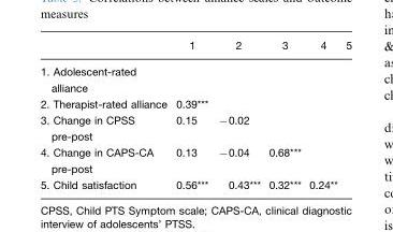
<table><thead><tr><td></td><td>1</td><td>2</td><td>3</td><td>4</td><td>5</td></tr></thead><tbody><tr><td colspan="6">1. Adolescent-rated alliance</td></tr><tr><td>2. Therapist-rated alliance</td><td>0.39***</td><td></td><td></td><td></td><td></td></tr><tr><td>3. Change in CPSS pre-post</td><td>0.15</td><td>−0.02</td><td></td><td></td><td></td></tr><tr><td>4. Change in CAPS-CA pre-post</td><td>0.13</td><td>−0.04</td><td>0.68***</td><td></td><td></td></tr><tr><td>5. Child satisfaction</td><td>0.56***</td><td>0.43***</td><td>0.32***</td><td>0.24**</td><td></td></tr></tbody></table>